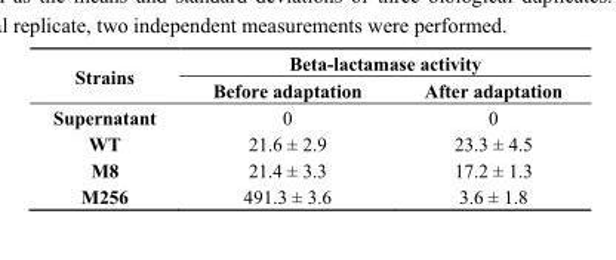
<table><thead><tr><td rowspan="2">Strains</td><td colspan="2">Beta-lactamase activity</td></tr><tr><td>Before adaptation</td><td>After adaptation</td></tr></thead><tbody><tr><td>Supernatant</td><td>0</td><td>0</td></tr><tr><td>WT</td><td>21.6 ± 2.9</td><td>23.3 ± 4.5</td></tr><tr><td>M8</td><td>21.4 ± 3.3</td><td>17.2 ± 1.3</td></tr><tr><td>M256</td><td>491.3 ± 3.6</td><td>3.6 ± 1.8</td></tr></tbody></table>